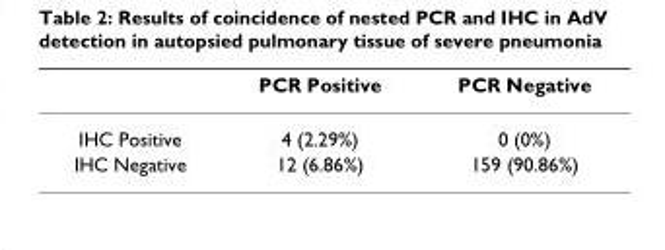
<table><thead><tr><td></td><td>PCR Positive</td><td>PCR Negative</td></tr></thead><tbody><tr><td>IHC Positive</td><td>4 (2.29%)</td><td>0 (0%)</td></tr><tr><td>IHC Negative</td><td>12 (6.86%)</td><td>159 (90.86%)</td></tr></tbody></table>